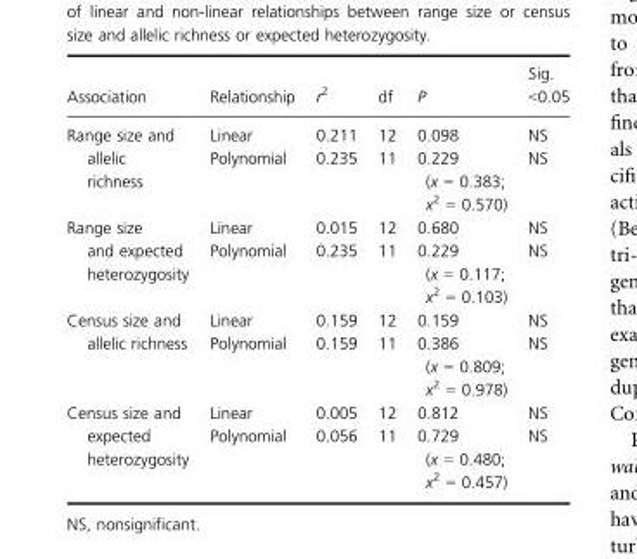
<table><thead><tr><td>Association</td><td>Relationship</td><td>r<sup>2</sup></td><td>df</td><td>P</td><td>Sig. &lt;0.05</td></tr></thead><tbody><tr><td rowspan="2">Range size and allelic richness</td><td>Linear</td><td>0.211</td><td>12</td><td>0.098</td><td>NS</td></tr><tr><td>Polynomial</td><td>0.235</td><td>11</td><td>0.229 (x = 0.383; x<sup>2</sup> = 0.570)</td><td>NS</td></tr><tr><td rowspan="2">Range size and expected heterozygosity</td><td>Linear</td><td>0.015</td><td>12</td><td>0.680</td><td>NS</td></tr><tr><td>Polynomial</td><td>0.235</td><td>11</td><td>0.229 (x = 0.117; x<sup>2</sup> = 0.103)</td><td>NS</td></tr><tr><td rowspan="2">Census size and allelic richness</td><td>Linear</td><td>0.159</td><td>12</td><td>0.159</td><td>NS</td></tr><tr><td>Polynomial</td><td>0.159</td><td>11</td><td>0.386 (x = 0.809; x<sup>2</sup> = 0.978)</td><td>NS</td></tr><tr><td rowspan="2">Census size and expected heterozygosity</td><td>Linear</td><td>0.005</td><td>12</td><td>0.812</td><td>NS</td></tr><tr><td>Polynomial</td><td>0.056</td><td>11</td><td>0.729 (x = 0.480; x<sup>2</sup> = 0.457)</td><td>NS</td></tr></tbody></table>